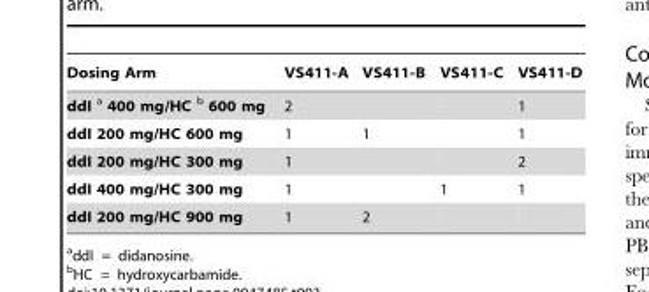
<table><thead><tr><td>Dosing Arm</td><td>VS411-A</td><td>VS411-B</td><td>VS411-C</td><td>VS411-D</td></tr></thead><tbody><tr><td>ddI a 400 mg/HC b 600 mg</td><td>2</td><td></td><td></td><td>1</td></tr><tr><td>ddI 200 mg/HC 600 mg</td><td>1</td><td>1</td><td></td><td>1</td></tr><tr><td>ddI 200 mg/HC 300 mg</td><td>1</td><td></td><td></td><td>2</td></tr><tr><td>ddI 400 mg/HC 300 mg</td><td>1</td><td></td><td>1</td><td>1</td></tr><tr><td>ddI 200 mg/HC 900 mg</td><td>1</td><td>2</td><td></td><td></td></tr></tbody></table>